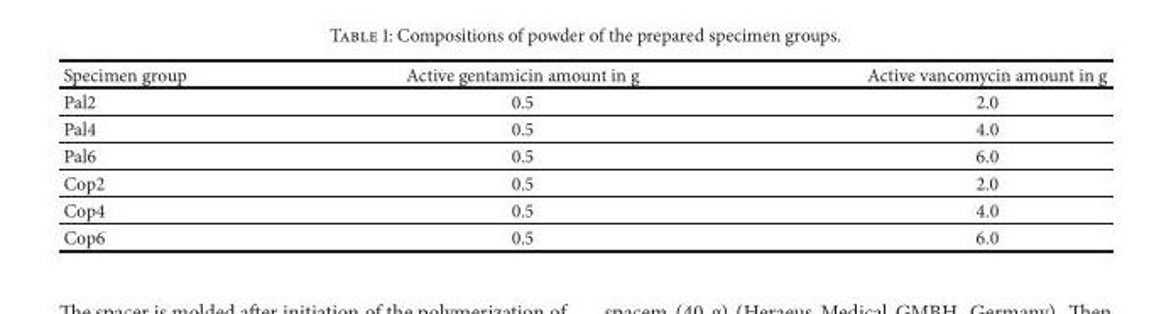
<table><thead><tr><td>Specimen group</td><td>Active gentamicin amount in g</td><td>Active vancomycin amount in g</td></tr></thead><tbody><tr><td>Pal2</td><td>0.5</td><td>2.0</td></tr><tr><td>Pal4</td><td>0.5</td><td>4.0</td></tr><tr><td>Pal6</td><td>0.5</td><td>6.0</td></tr><tr><td>Cop2</td><td>0.5</td><td>2.0</td></tr><tr><td>Cop4</td><td>0.5</td><td>4.0</td></tr><tr><td>Cop6</td><td>0.5</td><td>6.0</td></tr></tbody></table>